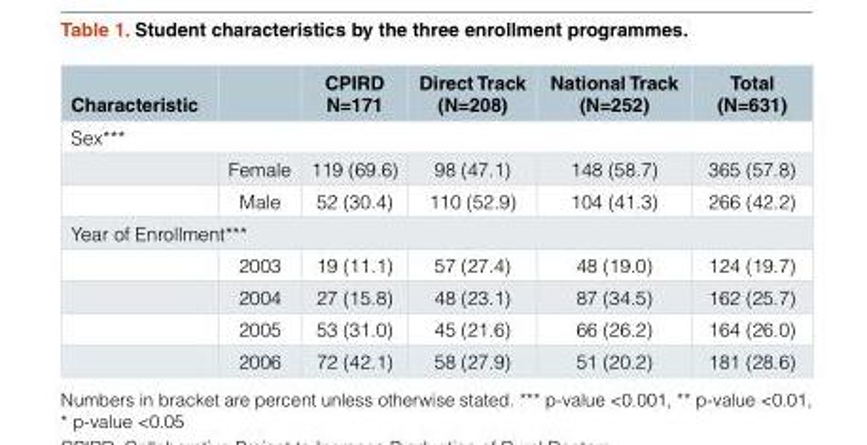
<table><thead><tr><td>Characteristic</td><td></td><td>CPIRD N=171</td><td>Direct Track (N=208)</td><td>National Track (N=252)</td><td>Total (N=631)</td></tr></thead><tbody><tr><td colspan="6">Sex***</td></tr><tr><td></td><td>Female</td><td>119 (69.6)</td><td>98 (47.1)</td><td>148 (58.7)</td><td>365 (57.8)</td></tr><tr><td></td><td>Male</td><td>52 (30.4)</td><td>110 (52.9)</td><td>104 (41.3)</td><td>266 (42.2)</td></tr><tr><td colspan="6">Year of Enrollment***</td></tr><tr><td></td><td>2003</td><td>19 (11.1)</td><td>57 (27.4)</td><td>48 (19.0)</td><td>124 (19.7)</td></tr><tr><td></td><td>2004</td><td>27 (15.8)</td><td>48 (23.1)</td><td>87 (34.5)</td><td>162 (25.7)</td></tr><tr><td></td><td>2005</td><td>53 (31.0)</td><td>45 (21.6)</td><td>66 (26.2)</td><td>164 (26.0)</td></tr><tr><td></td><td>2006</td><td>72 (42.1)</td><td>58 (27.9)</td><td>51 (20.2)</td><td>181 (28.6)</td></tr></tbody></table>